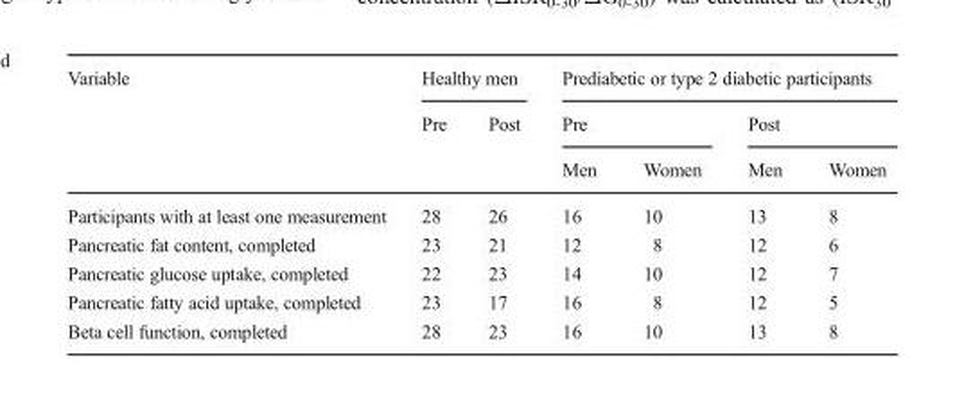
<table><thead><tr><td rowspan="3">Variable</td><td colspan="2">Healthy men</td><td colspan="4">Prediabetic or type 2 diabetic participants</td></tr><tr><td rowspan="2">Pre</td><td rowspan="2">Post</td><td colspan="2">Pre</td><td colspan="2">Post</td></tr><tr><td>Men</td><td>Women</td><td>Men</td><td>Women</td></tr></thead><tbody><tr><td>Participants with at least one measurement</td><td>28</td><td>26</td><td>16</td><td>10</td><td>13</td><td>8</td></tr><tr><td>Pancreatic fat content, completed</td><td>23</td><td>21</td><td>12</td><td>8</td><td>12</td><td>6</td></tr><tr><td>Pancreatic glucose uptake, completed</td><td>22</td><td>23</td><td>14</td><td>10</td><td>12</td><td>7</td></tr><tr><td>Pancreatic fatty acid uptake, completed</td><td>23</td><td>17</td><td>16</td><td>8</td><td>12</td><td>5</td></tr><tr><td>Beta cell function, completed</td><td>28</td><td>23</td><td>16</td><td>10</td><td>13</td><td>8</td></tr></tbody></table>